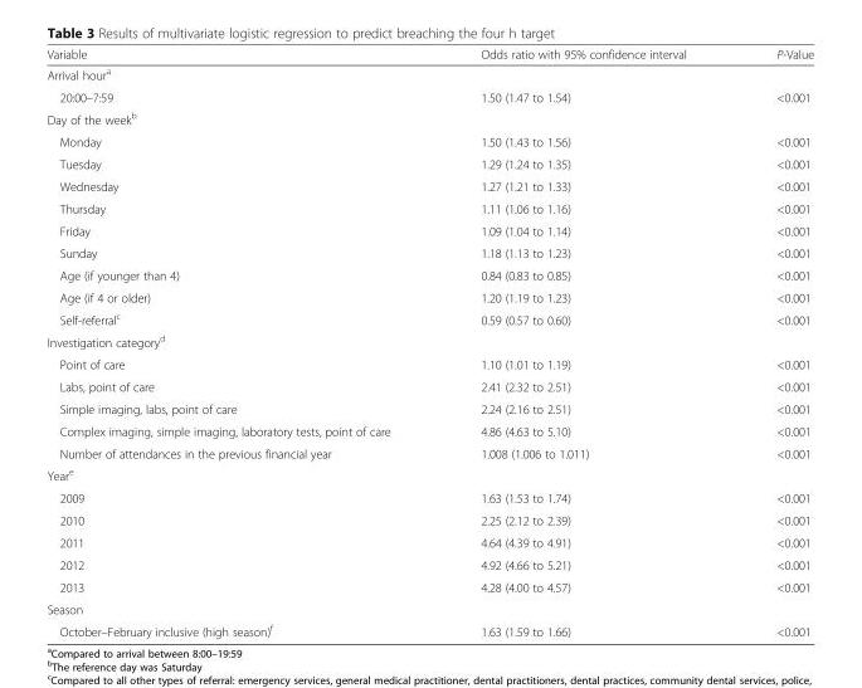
<table><thead><tr><td>Variable</td><td>Odds ratio with 95% confidence interval</td><td>P-Value</td></tr></thead><tbody><tr><td colspan="3">Arrival hour<sup>a</sup></td></tr><tr><td>20:00–7:59</td><td>1.50 (1.47 to 1.54)</td><td>&lt;0.001</td></tr><tr><td colspan="3">Day of the week<sup>b</sup></td></tr><tr><td>Monday</td><td>1.50 (1.43 to 1.56)</td><td>&lt;0.001</td></tr><tr><td>Tuesday</td><td>1.29 (1.24 to 1.35)</td><td>&lt;0.001</td></tr><tr><td>Wednesday</td><td>1.27 (1.21 to 1.33)</td><td>&lt;0.001</td></tr><tr><td>Thursday</td><td>1.11 (1.06 to 1.16)</td><td>&lt;0.001</td></tr><tr><td>Friday</td><td>1.09 (1.04 to 1.14)</td><td>&lt;0.001</td></tr><tr><td>Sunday</td><td>1.18 (1.13 to 1.23)</td><td>&lt;0.001</td></tr><tr><td>Age (if younger than 4)</td><td>0.84 (0.83 to 0.85)</td><td>&lt;0.001</td></tr><tr><td>Age (if 4 or older)</td><td>1.20 (1.19 to 1.23)</td><td>&lt;0.001</td></tr><tr><td>Self-referral<sup>c</sup></td><td>0.59 (0.57 to 0.60)</td><td>&lt;0.001</td></tr><tr><td colspan="3">Investigation category<sup>d</sup></td></tr><tr><td>Point of care</td><td>1.10 (1.01 to 1.19)</td><td>&lt;0.001</td></tr><tr><td>Labs, point of care</td><td>2.41 (2.32 to 2.51)</td><td>&lt;0.001</td></tr><tr><td>Simple imaging, labs, point of care</td><td>2.24 (2.16 to 2.51)</td><td>&lt;0.001</td></tr><tr><td>Complex imaging, simple imaging, laboratory tests, point of care</td><td>4.86 (4.63 to 5.10)</td><td>&lt;0.001</td></tr><tr><td>Number of attendances in the previous financial year</td><td>1.008 (1.006 to 1.011)</td><td>&lt;0.001</td></tr><tr><td colspan="3">Year<sup>e</sup></td></tr><tr><td>2009</td><td>1.63 (1.53 to 1.74)</td><td>&lt;0.001</td></tr><tr><td>2010</td><td>2.25 (2.12 to 2.39)</td><td>&lt;0.001</td></tr><tr><td>2011</td><td>4.64 (4.39 to 4.91)</td><td>&lt;0.001</td></tr><tr><td>2012</td><td>4.92 (4.66 to 5.21)</td><td>&lt;0.001</td></tr><tr><td>2013</td><td>4.28 (4.00 to 4.57)</td><td>&lt;0.001</td></tr><tr><td colspan="3">Season</td></tr><tr><td>October–February inclusive (high season)<sup>f</sup></td><td>1.63 (1.59 to 1.66)</td><td>&lt;0.001</td></tr></tbody></table>